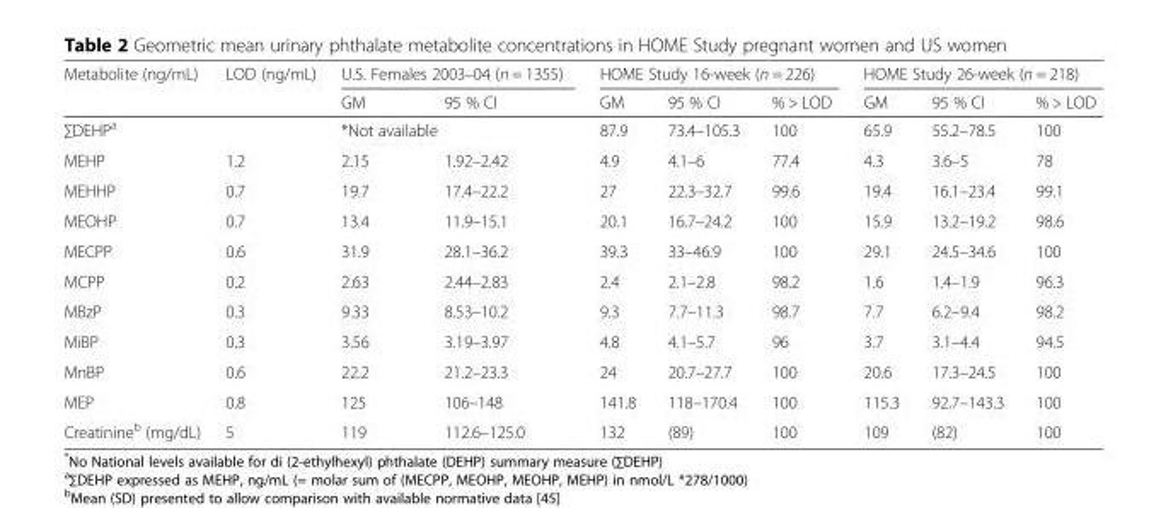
<table><thead><tr><td rowspan="2">Metabolite (ng/mL)</td><td rowspan="2">LOD (ng/mL)</td><td colspan="2">U.S. Females 2003–04 (n = 1355)</td><td colspan="3">HOME Study 16-week (n = 226)</td><td colspan="3">HOME Study 26-week (n = 218)</td></tr><tr><td>GM</td><td>95 % CI</td><td>GM</td><td>95 % CI</td><td>% &gt; LOD</td><td>GM</td><td>95 % CI</td><td>% &gt; LOD</td></tr></thead><tbody><tr><td>∑DEHP<sup>a</sup></td><td></td><td colspan="2">*Not available</td><td>87.9</td><td>73.4–105.3</td><td>100</td><td>65.9</td><td>55.2–78.5</td><td>100</td></tr><tr><td>MEHP</td><td>1.2</td><td>2.15</td><td>1.92–2.42</td><td>4.9</td><td>4.1–6</td><td>77.4</td><td>4.3</td><td>3.6–5</td><td>78</td></tr><tr><td>MEHHP</td><td>0.7</td><td>19.7</td><td>17.4–22.2</td><td>27</td><td>22.3–32.7</td><td>99.6</td><td>19.4</td><td>16.1–23.4</td><td>99.1</td></tr><tr><td>MEOHP</td><td>0.7</td><td>13.4</td><td>11.9–15.1</td><td>20.1</td><td>16.7–24.2</td><td>100</td><td>15.9</td><td>13.2–19.2</td><td>98.6</td></tr><tr><td>MECPP</td><td>0.6</td><td>31.9</td><td>28.1–36.2</td><td>39.3</td><td>33–46.9</td><td>100</td><td>29.1</td><td>24.5–34.6</td><td>100</td></tr><tr><td>MCPP</td><td>0.2</td><td>2.63</td><td>2.44–2.83</td><td>2.4</td><td>2.1–2.8</td><td>98.2</td><td>1.6</td><td>1.4–1.9</td><td>96.3</td></tr><tr><td>MBzP</td><td>0.3</td><td>9.33</td><td>8.53–10.2</td><td>9.3</td><td>7.7–11.3</td><td>98.7</td><td>7.7</td><td>6.2–9.4</td><td>98.2</td></tr><tr><td>MiBP</td><td>0.3</td><td>3.56</td><td>3.19–3.97</td><td>4.8</td><td>4.1–5.7</td><td>96</td><td>3.7</td><td>3.1–4.4</td><td>94.5</td></tr><tr><td>MnBP</td><td>0.6</td><td>22.2</td><td>21.2–23.3</td><td>24</td><td>20.7–27.7</td><td>100</td><td>20.6</td><td>17.3–24.5</td><td>100</td></tr><tr><td>MEP</td><td>0.8</td><td>125</td><td>106–148</td><td>141.8</td><td>118–170.4</td><td>100</td><td>115.3</td><td>92.7–143.3</td><td>100</td></tr><tr><td>Creatinine<sup>b</sup> (mg/dL)</td><td>5</td><td>119</td><td>112.6–125.0</td><td>132</td><td>(89)</td><td>100</td><td>109</td><td>(82)</td><td>100</td></tr></tbody></table>